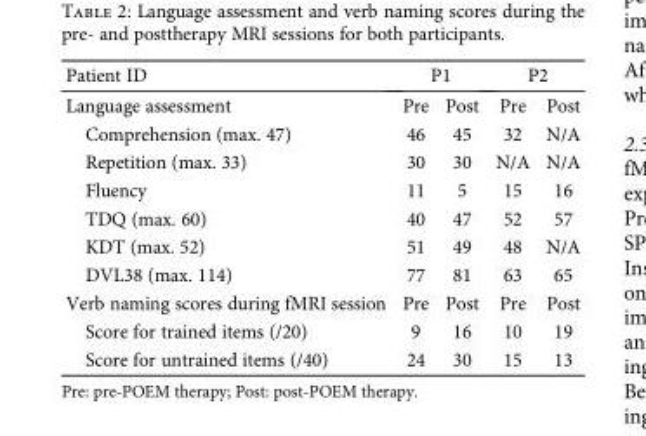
<table><thead><tr><td rowspan="2">Patient ID Language assessment</td><td colspan="2">P1</td><td colspan="2">P2</td></tr><tr><td>Pre</td><td>Post</td><td>Pre</td><td>Post</td></tr></thead><tbody><tr><td>Comprehension (max. 47)</td><td>46</td><td>45</td><td>32</td><td>N/A</td></tr><tr><td>Repetition (max. 33)</td><td>30</td><td>30</td><td>N/A</td><td>N/A</td></tr><tr><td>Fluency</td><td>11</td><td>5</td><td>15</td><td>16</td></tr><tr><td>TDQ (max. 60)</td><td>40</td><td>47</td><td>52</td><td>57</td></tr><tr><td>KDT (max. 52)</td><td>51</td><td>49</td><td>48</td><td>N/A</td></tr><tr><td>DVL38 (max. 114)</td><td>77</td><td>81</td><td>63</td><td>65</td></tr><tr><td>Verb naming scores during fMRI session</td><td>Pre</td><td>Post</td><td>Pre</td><td>Post</td></tr><tr><td>Score for trained items (/20)</td><td>9</td><td>16</td><td>10</td><td>19</td></tr><tr><td>Score for untrained items (/40)</td><td>24</td><td>30</td><td>15</td><td>13</td></tr></tbody></table>